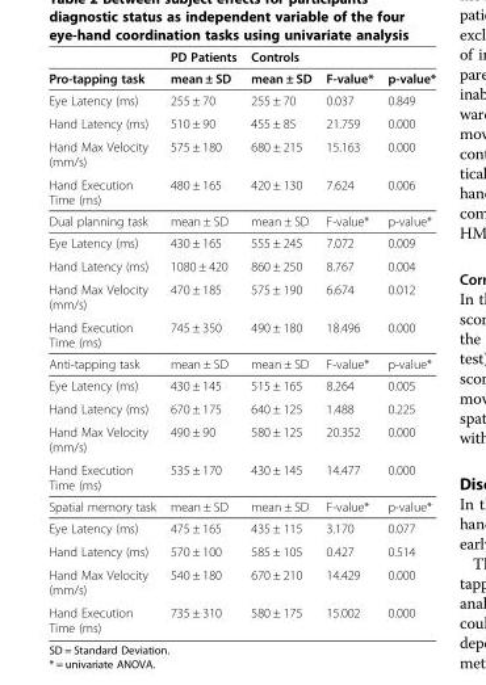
<table><thead><tr><td></td><td>PD Patients</td><td>Controls</td><td></td><td></td></tr></thead><tbody><tr><td>Pro-tapping task</td><td>mean ± SD</td><td>mean ± SD</td><td>F-value*</td><td>p-value*</td></tr><tr><td>Eye Latency (ms)</td><td>255 ± 70</td><td>255 ± 70</td><td>0.037</td><td>0.849</td></tr><tr><td>Hand Latency (ms)</td><td>510 ± 90</td><td>455 ± 85</td><td>21.759</td><td>0.000</td></tr><tr><td>Hand Max Velocity (mm/s)</td><td>575 ± 180</td><td>680 ± 215</td><td>15.163</td><td>0.000</td></tr><tr><td>Hand Execution Time (ms)</td><td>480 ± 165</td><td>420 ± 130</td><td>7.624</td><td>0.006</td></tr><tr><td>Dual planning task</td><td>mean ± SD</td><td>mean ± SD</td><td>F-value*</td><td>p-value*</td></tr><tr><td>Eye Latency (ms)</td><td>430 ± 165</td><td>555 ± 245</td><td>7.072</td><td>0.009</td></tr><tr><td>Hand Latency (ms)</td><td>1080 ± 420</td><td>860 ± 250</td><td>8.767</td><td>0.004</td></tr><tr><td>Hand Max Velocity (mm/s)</td><td>470 ± 185</td><td>575 ± 190</td><td>6.674</td><td>0.012</td></tr><tr><td>Hand Execution Time (ms)</td><td>745 ± 350</td><td>490 ± 180</td><td>18.496</td><td>0.000</td></tr><tr><td>Anti-tapping task</td><td>mean ± SD</td><td>mean ± SD</td><td>F-value*</td><td>p-value*</td></tr><tr><td>Eye Latency (ms)</td><td>430 ± 145</td><td>515 ± 165</td><td>8.264</td><td>0.005</td></tr><tr><td>Hand Latency (ms)</td><td>670 ± 175</td><td>640 ± 125</td><td>1.488</td><td>0.225</td></tr><tr><td>Hand Max Velocity (mm/s)</td><td>490 ± 90</td><td>580 ± 125</td><td>20.352</td><td>0.000</td></tr><tr><td>Hand Execution Time (ms)</td><td>535 ± 170</td><td>430 ± 145</td><td>14.477</td><td>0.000</td></tr><tr><td>Spatial memory task</td><td>mean ± SD</td><td>mean ± SD</td><td>F-value*</td><td>p-value*</td></tr><tr><td>Eye Latency (ms)</td><td>475 ± 165</td><td>435 ± 115</td><td>3.170</td><td>0.077</td></tr><tr><td>Hand Latency (ms)</td><td>570 ± 100</td><td>585 ± 105</td><td>0.427</td><td>0.514</td></tr><tr><td>Hand Max Velocity (mm/s)</td><td>540 ± 180</td><td>670 ± 210</td><td>14.429</td><td>0.000</td></tr><tr><td>Hand Execution Time (ms)</td><td>735 ± 310</td><td>580 ± 175</td><td>15.002</td><td>0.000</td></tr></tbody></table>